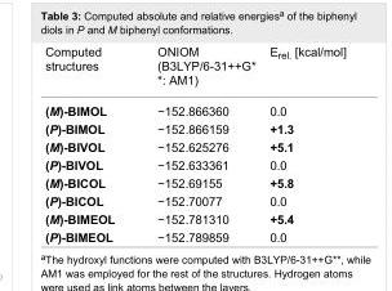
<table><tbody><tr><td>Computed structures</td><td>ONIOM (B3LYP/6-31++G* *: AM1)</td><td>E<sub>rel.</sub> [kcal/mol]</td></tr><tr><td>(M)-BIMOL</td><td>−152.866360</td><td>0.0</td></tr><tr><td>(P)-BIMOL</td><td>−152.866159</td><td>+1.3</td></tr><tr><td>(M)-BIVOL</td><td>−152.625276</td><td>+5.1</td></tr><tr><td>(P)-BIVOL</td><td>−152.633361</td><td>0.0</td></tr><tr><td>(M)-BICOL</td><td>−152.69155</td><td>+5.8</td></tr><tr><td>(P)-BICOL</td><td>−152.70077</td><td>0.0</td></tr><tr><td>(M)-BIMEOL</td><td>−152.781310</td><td>+5.4</td></tr><tr><td>(P)-BIMEOL</td><td>−152.789859</td><td>0.0</td></tr></tbody></table>